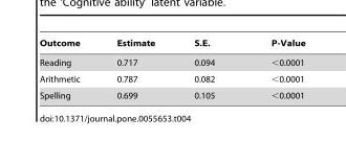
<table><thead><tr><td>Outcome</td><td>Estimate</td><td>S.E.</td><td>P-Value</td></tr></thead><tbody><tr><td>Reading</td><td>0.717</td><td>0.094</td><td>&lt;0.0001</td></tr><tr><td>Arithmetic</td><td>0.787</td><td>0.082</td><td>&lt;0.0001</td></tr><tr><td>Spelling</td><td>0.699</td><td>0.105</td><td>&lt;0.0001</td></tr></tbody></table>